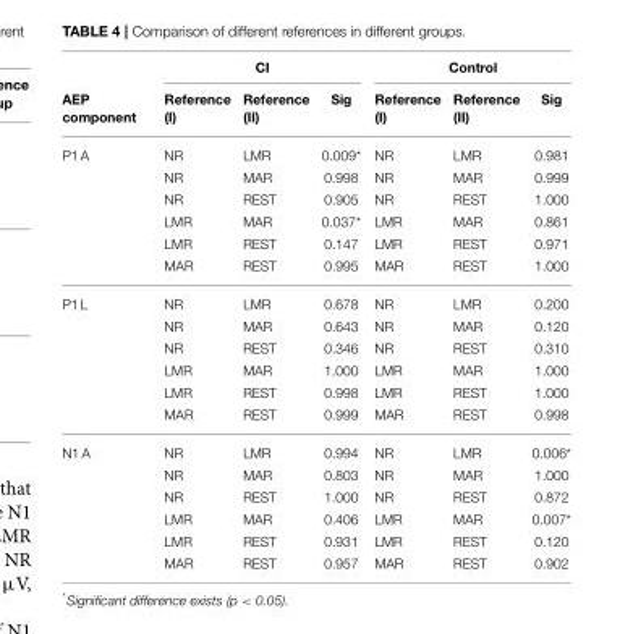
<table><thead><tr><td rowspan="2">AEP component</td><td colspan="3">CI</td><td colspan="3">Control</td></tr><tr><td>Reference (I)</td><td>Reference (II)</td><td>Sig</td><td>Reference (I)</td><td>Reference (II)</td><td>Sig</td></tr></thead><tbody><tr><td rowspan="6">P1 A</td><td>NR</td><td>LMR</td><td>0.009*</td><td>NR</td><td>LMR</td><td>0.981</td></tr><tr><td>NR</td><td>MAR</td><td>0.998</td><td>NR</td><td>MAR</td><td>0.999</td></tr><tr><td>NR</td><td>REST</td><td>0.905</td><td>NR</td><td>REST</td><td>1.000</td></tr><tr><td>LMR</td><td>MAR</td><td>0.037*</td><td>LMR</td><td>MAR</td><td>0.861</td></tr><tr><td>LMR</td><td>REST</td><td>0.147</td><td>LMR</td><td>REST</td><td>0.971</td></tr><tr><td>MAR</td><td>REST</td><td>0.995</td><td>MAR</td><td>REST</td><td>1.000</td></tr><tr><td rowspan="6">P1 L</td><td>NR</td><td>LMR</td><td>0.678</td><td>NR</td><td>LMR</td><td>0.200</td></tr><tr><td>NR</td><td>MAR</td><td>0.643</td><td>NR</td><td>MAR</td><td>0.120</td></tr><tr><td>NR</td><td>REST</td><td>0.346</td><td>NR</td><td>REST</td><td>0.310</td></tr><tr><td>LMR</td><td>MAR</td><td>1.000</td><td>LMR</td><td>MAR</td><td>1.000</td></tr><tr><td>LMR</td><td>REST</td><td>0.998</td><td>LMR</td><td>REST</td><td>1.000</td></tr><tr><td>MAR</td><td>REST</td><td>0.999</td><td>MAR</td><td>REST</td><td>0.998</td></tr><tr><td rowspan="6">N1 A</td><td>NR</td><td>LMR</td><td>0.994</td><td>NR</td><td>LMR</td><td>0.006*</td></tr><tr><td>NR</td><td>MAR</td><td>0.803</td><td>NR</td><td>MAR</td><td>1.000</td></tr><tr><td>NR</td><td>REST</td><td>1.000</td><td>NR</td><td>REST</td><td>0.872</td></tr><tr><td>LMR</td><td>MAR</td><td>0.406</td><td>LMR</td><td>MAR</td><td>0.007*</td></tr><tr><td>LMR</td><td>REST</td><td>0.931</td><td>LMR</td><td>REST</td><td>0.120</td></tr><tr><td>MAR</td><td>REST</td><td>0.957</td><td>MAR</td><td>REST</td><td>0.902</td></tr></tbody></table>